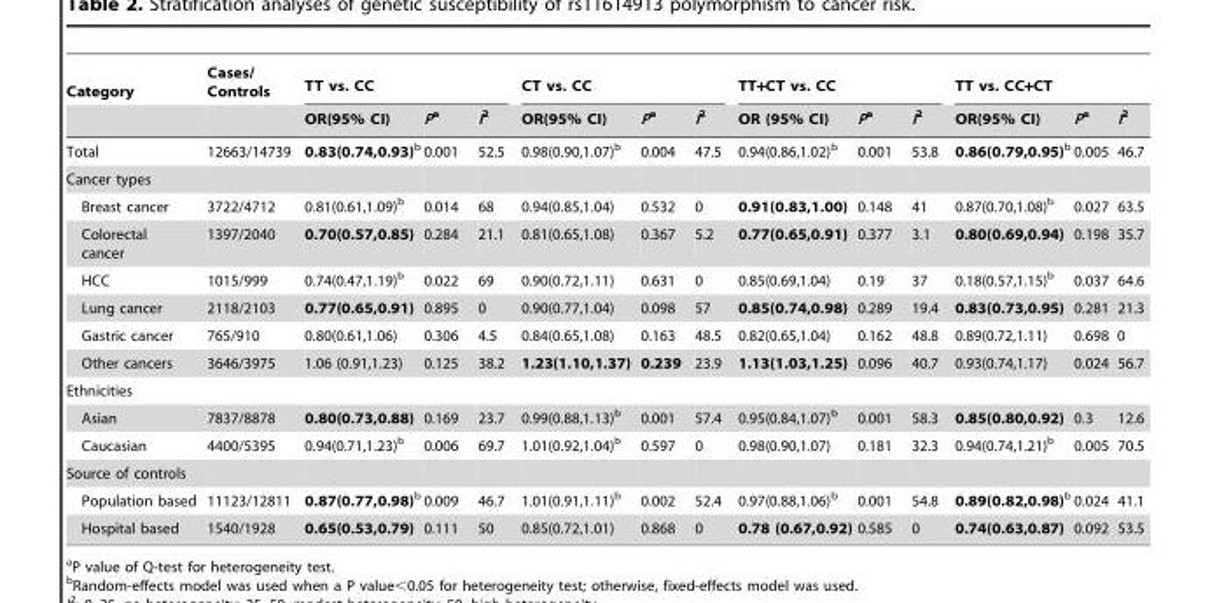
<table><thead><tr><td rowspan="2">Category</td><td rowspan="2">Cases/ Controls</td><td colspan="3">TT vs. CC</td><td colspan="3">CT vs. CC</td><td colspan="3">TT+CT vs. CC</td><td colspan="3">TT vs. CC+CT</td></tr><tr><td>OR(95% CI)</td><td>Pa</td><td>I<sup>2</sup></td><td>OR(95% CI)</td><td>Pa</td><td>I<sup>2</sup></td><td>OR (95% CI)</td><td>Pa</td><td>I<sup>2</sup></td><td>OR(95% CI)</td><td>Pa</td><td>I<sup>2</sup></td></tr></thead><tbody><tr><td>Total</td><td>12663/14739</td><td>0.83(0.74,0.93)b</td><td>0.001</td><td>52.5</td><td>0.98(0.90,1.07)<sup>b</sup></td><td>0.004</td><td>47.5</td><td>0.94(0.86,1.02)<sup>b</sup></td><td>0.001</td><td>53.8</td><td>0.86(0.79,0.95)b</td><td>0.005</td><td>46.7</td></tr><tr><td colspan="14">Cancer types</td></tr><tr><td>Breast cancer</td><td>3722/4712</td><td>0.81(0.61,1.09)<sup>b</sup></td><td>0.014</td><td>68</td><td>0.94(0.85,1.04)</td><td>0.532</td><td>0</td><td>0.91(0.83,1.00)</td><td>0.148</td><td>41</td><td>0.87(0.70,1.08)<sup>b</sup></td><td>0.027</td><td>63.5</td></tr><tr><td>Colorectal cancer</td><td>1397/2040</td><td>0.70(0.57,0.85)</td><td>0.284</td><td>21.1</td><td>0.81(0.65,1.08)</td><td>0.367</td><td>5.2</td><td>0.77(0.65,0.91)</td><td>0.377</td><td>3.1</td><td>0.80(0.69,0.94)</td><td>0.198</td><td>35.7</td></tr><tr><td>HCC</td><td>1015/999</td><td>0.74(0.47,1.19)<sup>b</sup></td><td>0.022</td><td>69</td><td>0.90(0.72,1.11)</td><td>0.631</td><td>0</td><td>0.85(0.69,1.04)</td><td>0.19</td><td>37</td><td>0.18(0.57,1.15)<sup>b</sup></td><td>0.037</td><td>64.6</td></tr><tr><td>Lung cancer</td><td>2118/2103</td><td>0.77(0.65,0.91)</td><td>0.895</td><td>0</td><td>0.90(0.77,1.04)</td><td>0.098</td><td>57</td><td>0.85(0.74,0.98)</td><td>0.289</td><td>19.4</td><td>0.83(0.73,0.95)</td><td>0.281</td><td>21.3</td></tr><tr><td>Gastric cancer</td><td>765/910</td><td>0.80(0.61,1.06)</td><td>0.306</td><td>4.5</td><td>0.84(0.65,1.08)</td><td>0.163</td><td>48.5</td><td>0.82(0.65,1.04)</td><td>0.162</td><td>48.8</td><td>0.89(0.72,1.11)</td><td>0.698</td><td>0</td></tr><tr><td>Other cancers</td><td>3646/3975</td><td>1.06 (0.91,1.23)</td><td>0.125</td><td>38.2</td><td>1.23(1.10,1.37)</td><td>0.239</td><td>23.9</td><td>1.13(1.03,1.25)</td><td>0.096</td><td>40.7</td><td>0.93(0.74,1.17)</td><td>0.024</td><td>56.7</td></tr><tr><td colspan="14">Ethnicities</td></tr><tr><td>Asian</td><td>7837/8878</td><td>0.80(0.73,0.88)</td><td>0.169</td><td>23.7</td><td>0.99(0.88,1.13)<sup>b</sup></td><td>0.001</td><td>57.4</td><td>0.95(0.84,1.07)<sup>b</sup></td><td>0.001</td><td>58.3</td><td>0.85(0.80,0.92)</td><td>0.3</td><td>12.6</td></tr><tr><td>Caucasian</td><td>4400/5395</td><td>0.94(0.71,1.23)<sup>b</sup></td><td>0.006</td><td>69.7</td><td>1.01(0.92,1.04)<sup>b</sup></td><td>0.597</td><td>0</td><td>0.98(0.90,1.07)</td><td>0.181</td><td>32.3</td><td>0.94(0.74,1.21)<sup>b</sup></td><td>0.005</td><td>70.5</td></tr><tr><td colspan="14">Source of controls</td></tr><tr><td>Population based</td><td>11123/12811</td><td>0.87(0.77,0.98)b</td><td>0.009</td><td>46.7</td><td>1.01(0.91,1.11)<sup>b</sup></td><td>0.002</td><td>52.4</td><td>0.97(0.88,1.06)<sup>b</sup></td><td>0.001</td><td>54.8</td><td>0.89(0.82,0.98)b</td><td>0.024</td><td>41.1</td></tr><tr><td>Hospital based</td><td>1540/1928</td><td>0.65(0.53,0.79)</td><td>0.111</td><td>50</td><td>0.85(0.72,1.01)</td><td>0.868</td><td>0</td><td>0.78 (0.67,0.92)</td><td>0.585</td><td>0</td><td>0.74(0.63,0.87)</td><td>0.092</td><td>53.5</td></tr></tbody></table>